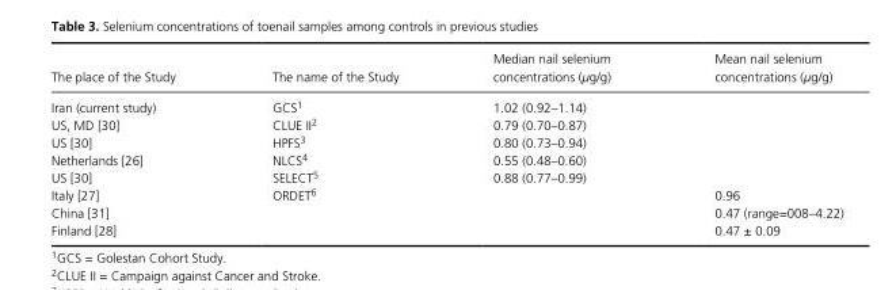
<table><thead><tr><td>The place of the Study</td><td>The name of the Study</td><td>Median nail selenium concentrations (μg/g)</td><td>Mean nail selenium concentrations (μg/g)</td></tr></thead><tbody><tr><td>Iran (current study)</td><td>GCS1</td><td>1.02 (0.92–1.14)</td><td></td></tr><tr><td>US, MD [30]</td><td>CLUE II2</td><td>0.79 (0.70–0.87)</td><td></td></tr><tr><td>US [30]</td><td>HPFS3</td><td>0.80 (0.73–0.94)</td><td></td></tr><tr><td>Netherlands [26]</td><td>NLCS4</td><td>0.55 (0.48–0.60)</td><td></td></tr><tr><td>US [30]</td><td>SELECT5</td><td>0.88 (0.77–0.99)</td><td></td></tr><tr><td>Italy [27]</td><td>ORDET6</td><td></td><td>0.96</td></tr><tr><td>China [31]</td><td></td><td></td><td>0.47 (range=008–4.22)</td></tr><tr><td>Finland [28]</td><td></td><td></td><td>0.47 ± 0.09</td></tr></tbody></table>